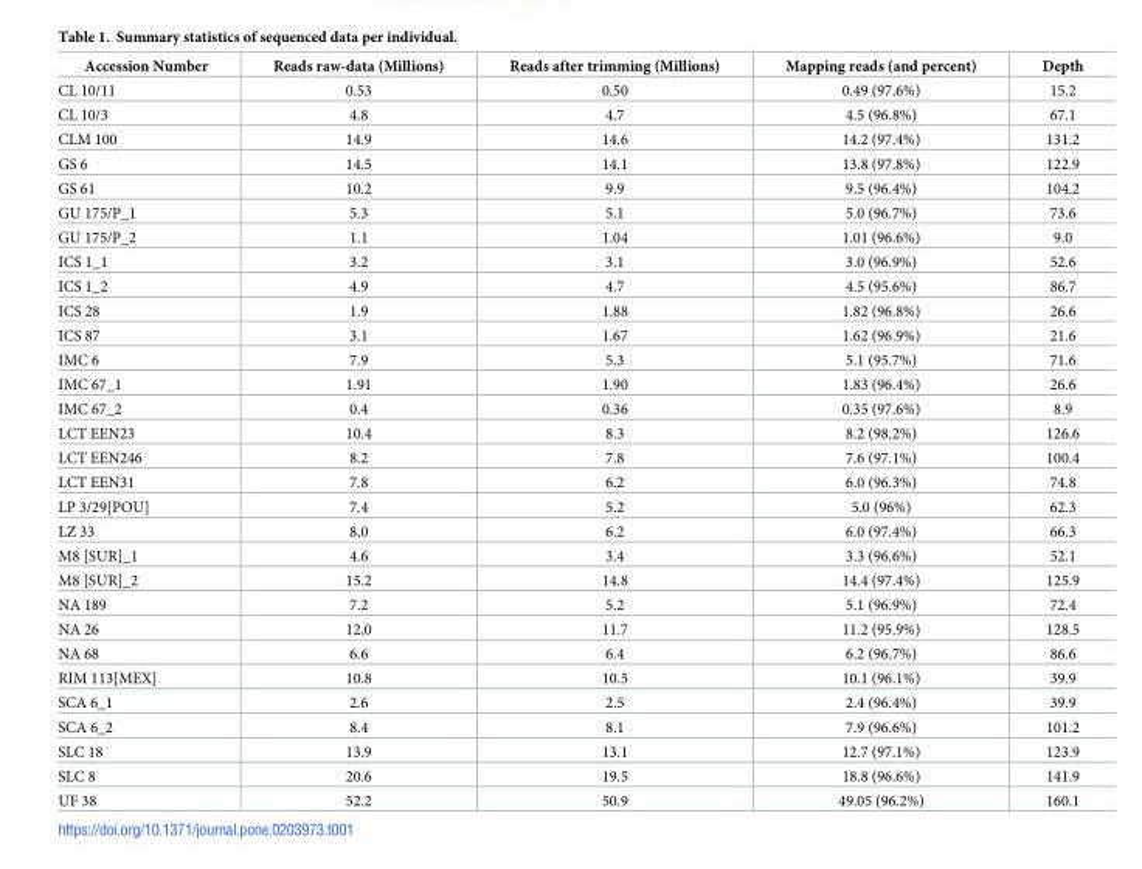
<table><thead><tr><td>Accession Number</td><td>Reads raw-data (Millions)</td><td>Reads after trimming (Millions)</td><td>Mapping reads (and percent)</td><td>Depth</td></tr></thead><tbody><tr><td>CL 10/11</td><td>0.53</td><td>0.50</td><td>0.49 (97.6%)</td><td>15.2</td></tr><tr><td>CL 10/3</td><td>4.8</td><td>4.7</td><td>4.5 (96.8%)</td><td>67.1</td></tr><tr><td>CLM 100</td><td>14.9</td><td>14.6</td><td>14.2 (97.4%)</td><td>131.2</td></tr><tr><td>GS 6</td><td>14.5</td><td>14.1</td><td>13.8 (97.8%)</td><td>122.9</td></tr><tr><td>GS 61</td><td>10.2</td><td>9.9</td><td>9.5 (96.4%)</td><td>104.2</td></tr><tr><td>GU 175/P_1</td><td>5.3</td><td>5.1</td><td>5.0 (96.7%)</td><td>73.6</td></tr><tr><td>GU 175/P_2</td><td>1.1</td><td>1.04</td><td>1.01 (96.6%)</td><td>9.0</td></tr><tr><td>ICS 1_1</td><td>3.2</td><td>3.1</td><td>3.0 (96.9%)</td><td>52.6</td></tr><tr><td>ICS 1_2</td><td>4.9</td><td>4.7</td><td>4.5 (95.6%)</td><td>86.7</td></tr><tr><td>ICS 28</td><td>1.9</td><td>1.88</td><td>1.82 (96.8%)</td><td>26.6</td></tr><tr><td>ICS 87</td><td>3.1</td><td>1.67</td><td>1.62 (96.9%)</td><td>21.6</td></tr><tr><td>IMC 6</td><td>7.9</td><td>5.3</td><td>5.1 (95.7%)</td><td>71.6</td></tr><tr><td>IMC 67_1</td><td>1.91</td><td>1.90</td><td>1.83 (96.4%)</td><td>26.6</td></tr><tr><td>IMC 67_2</td><td>0.4</td><td>0.36</td><td>0.35 (97.6%)</td><td>8.9</td></tr><tr><td>LCT EEN23</td><td>10.4</td><td>8.3</td><td>8.2 (98.2%)</td><td>126.6</td></tr><tr><td>LCT EEN246</td><td>8.2</td><td>7.8</td><td>7.6 (97.1%)</td><td>100.4</td></tr><tr><td>LCT EEN31</td><td>7.8</td><td>6.2</td><td>6.0 (96.3%)</td><td>74.8</td></tr><tr><td>LP 3/29[POU]</td><td>7.4</td><td>5.2</td><td>5.0 (96%)</td><td>62.3</td></tr><tr><td>LZ 33</td><td>8,0</td><td>6.2</td><td>6.0 (97.4%)</td><td>66.3</td></tr><tr><td>M8 [SUR]_1</td><td>4.6</td><td>3.4</td><td>3.3 (96.6%)</td><td>52.1</td></tr><tr><td>M8 [SUR]_2</td><td>15.2</td><td>14.8</td><td>14.4 (97.4%)</td><td>125.9</td></tr><tr><td>NA 189</td><td>7.2</td><td>5.2</td><td>5.1 (96.9%)</td><td>72.4</td></tr><tr><td>NA 26</td><td>12,0</td><td>11.7</td><td>11.2 (95.9%)</td><td>128.5</td></tr><tr><td>NA 68</td><td>6.6</td><td>6.4</td><td>6.2 (96.7%)</td><td>86.6</td></tr><tr><td>RIM 113[MEX]</td><td>10.8</td><td>10.5</td><td>10.1 (96.1%)</td><td>39.9</td></tr><tr><td>SCA 6_1</td><td>2.6</td><td>2.5</td><td>2.4 (96.4%)</td><td>39.9</td></tr><tr><td>SCA 6_2</td><td>8.4</td><td>8.1</td><td>7.9 (96.6%)</td><td>101.2</td></tr><tr><td>SLC 18</td><td>13.9</td><td>13.1</td><td>12.7 (97.1%)</td><td>123.9</td></tr><tr><td>SLC 8</td><td>20.6</td><td>19.5</td><td>18.8 (96.6%)</td><td>141.9</td></tr><tr><td>UF 38</td><td>52.2</td><td>50.9</td><td>49.05 (96.2%)</td><td>160.1</td></tr></tbody></table>